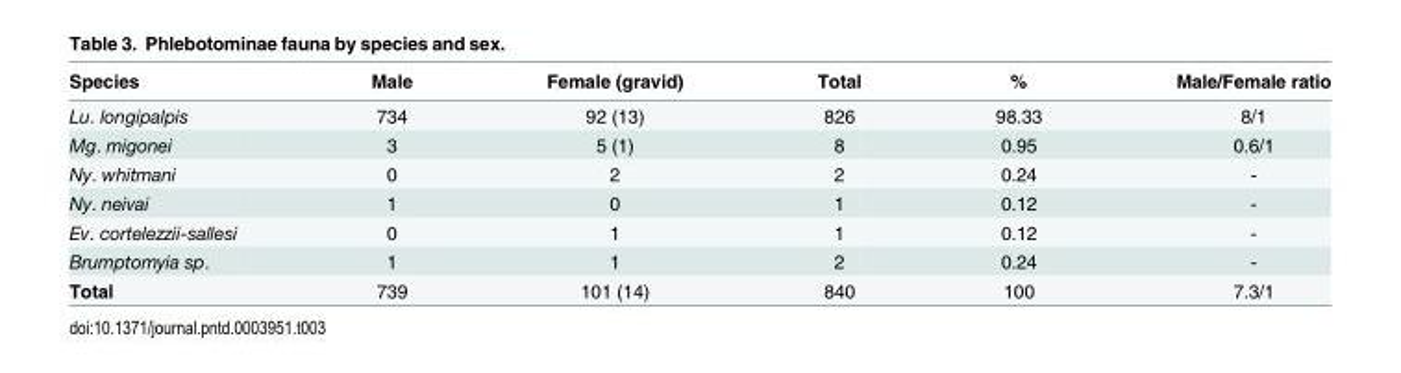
<table><thead><tr><td>Species</td><td>Male</td><td>Female (gravid)</td><td>Total</td><td>%</td><td>Male/Female ratio</td></tr></thead><tbody><tr><td>Lu. longipalpis</td><td>734</td><td>92 (13)</td><td>826</td><td>98.33</td><td>8/1</td></tr><tr><td>Mg. migonei</td><td>3</td><td>5 (1)</td><td>8</td><td>0.95</td><td>0.6/1</td></tr><tr><td>Ny. whitmani</td><td>0</td><td>2</td><td>2</td><td>0.24</td><td>-</td></tr><tr><td>Ny. neivai</td><td>1</td><td>0</td><td>1</td><td>0.12</td><td>-</td></tr><tr><td>Ev. cortelezzii-sallesi</td><td>0</td><td>1</td><td>1</td><td>0.12</td><td>-</td></tr><tr><td>Brumptomyia sp.</td><td>1</td><td>1</td><td>2</td><td>0.24</td><td>-</td></tr><tr><td>Total</td><td>739</td><td>101 (14)</td><td>840</td><td>100</td><td>7.3/1</td></tr></tbody></table>